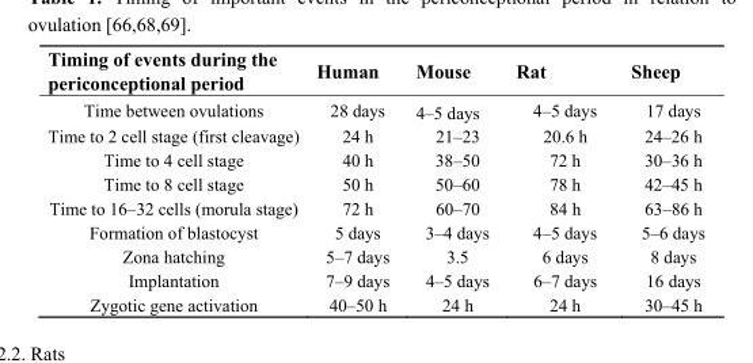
<table><thead><tr><td>Timing of events during the periconceptional period</td><td>Human</td><td>Mouse</td><td>Rat</td><td>Sheep</td></tr></thead><tbody><tr><td>Time between ovulations</td><td>28 days</td><td>4–5 days</td><td>4–5 days</td><td>17 days</td></tr><tr><td>Time to 2 cell stage (first cleavage)</td><td>24 h</td><td>21–23</td><td>20.6 h</td><td>24–26 h</td></tr><tr><td>Time to 4 cell stage</td><td>40 h</td><td>38–50</td><td>72 h</td><td>30–36 h</td></tr><tr><td>Time to 8 cell stage</td><td>50 h</td><td>50–60</td><td>78 h</td><td>42–45 h</td></tr><tr><td>Time to 16–32 cells (morula stage)</td><td>72 h</td><td>60–70</td><td>84 h</td><td>63–86 h</td></tr><tr><td>Formation of blastocyst</td><td>5 days</td><td>3–4 days</td><td>4–5 days</td><td>5–6 days</td></tr><tr><td>Zona hatching</td><td>5–7 days</td><td>3.5</td><td>6 days</td><td>8 days</td></tr><tr><td>Implantation</td><td>7–9 days</td><td>4–5 days</td><td>6–7 days</td><td>16 days</td></tr><tr><td>Zygotic gene activation</td><td>40–50 h</td><td>24 h</td><td>24 h</td><td>30–45 h</td></tr></tbody></table>